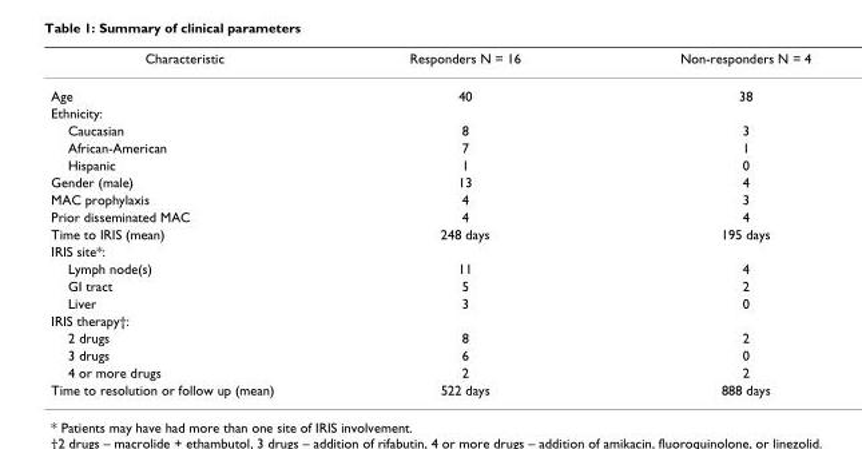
<table><thead><tr><td>Characteristic</td><td>Responders N = 16</td><td>Non-responders N = 4</td></tr></thead><tbody><tr><td>Age</td><td>40</td><td>38</td></tr><tr><td colspan="3">Ethnicity:</td></tr><tr><td>Caucasian</td><td>8</td><td>3</td></tr><tr><td>African-American</td><td>7</td><td>1</td></tr><tr><td>Hispanic</td><td>1</td><td>0</td></tr><tr><td>Gender (male)</td><td>13</td><td>4</td></tr><tr><td>MAC prophylaxis</td><td>4</td><td>3</td></tr><tr><td>Prior disseminated MAC</td><td>4</td><td>4</td></tr><tr><td>Time to IRIS (mean)</td><td>248 days</td><td>195 days</td></tr><tr><td colspan="3">IRIS site*:</td></tr><tr><td>Lymph node(s)</td><td>11</td><td>4</td></tr><tr><td>GI tract</td><td>5</td><td>2</td></tr><tr><td>Liver</td><td>3</td><td>0</td></tr><tr><td colspan="3">IRIS therapy†:</td></tr><tr><td>2 drugs</td><td>8</td><td>2</td></tr><tr><td>3 drugs</td><td>6</td><td>0</td></tr><tr><td>4 or more drugs</td><td>2</td><td>2</td></tr><tr><td>Time to resolution or follow up (mean)</td><td>522 days</td><td>888 days</td></tr></tbody></table>